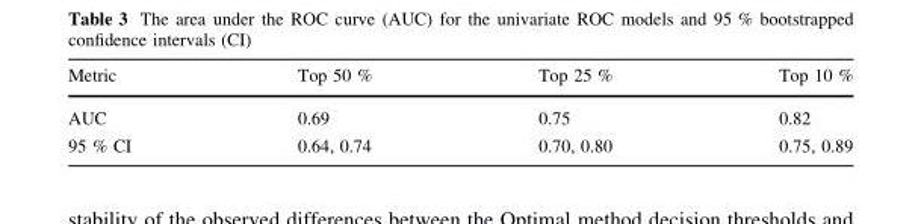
<table><thead><tr><td>Metric</td><td>Top 50 %</td><td>Top 25 %</td><td>Top 10 %</td></tr></thead><tbody><tr><td>AUC</td><td>0.69</td><td>0.75</td><td>0.82</td></tr><tr><td>95 % CI</td><td>0.64, 0.74</td><td>0.70, 0.80</td><td>0.75, 0.89</td></tr></tbody></table>